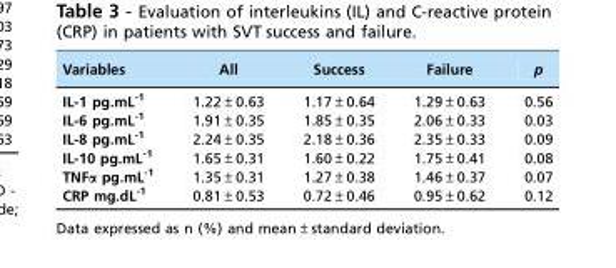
<table><thead><tr><td>Variables</td><td>All</td><td>Success</td><td>Failure</td><td>p</td></tr></thead><tbody><tr><td>IL-1 pg.mL<sup>-1</sup></td><td>1.22±0.63</td><td>1.17±0.64</td><td>1.29±0.63</td><td>0.56</td></tr><tr><td>IL-6 pg.mL<sup>-1</sup></td><td>1.91±0.35</td><td>1.85±0.35</td><td>2.06±0.33</td><td>0.03</td></tr><tr><td>IL-8 pg.mL<sup>-1</sup></td><td>2.24±0.35</td><td>2.18±0.36</td><td>2.35±0.33</td><td>0.09</td></tr><tr><td>IL-10 pg.mL<sup>-1</sup></td><td>1.65±0.31</td><td>1.60±0.22</td><td>1.75±0.41</td><td>0.08</td></tr><tr><td>TNFα pg.mL<sup>-1</sup></td><td>1.35±0.31</td><td>1.27±0.38</td><td>1.46±0.37</td><td>0.07</td></tr><tr><td>CRP mg.dL<sup>-1</sup></td><td>0.81±0.53</td><td>0.72±0.46</td><td>0.95±0.62</td><td>0.12</td></tr></tbody></table>